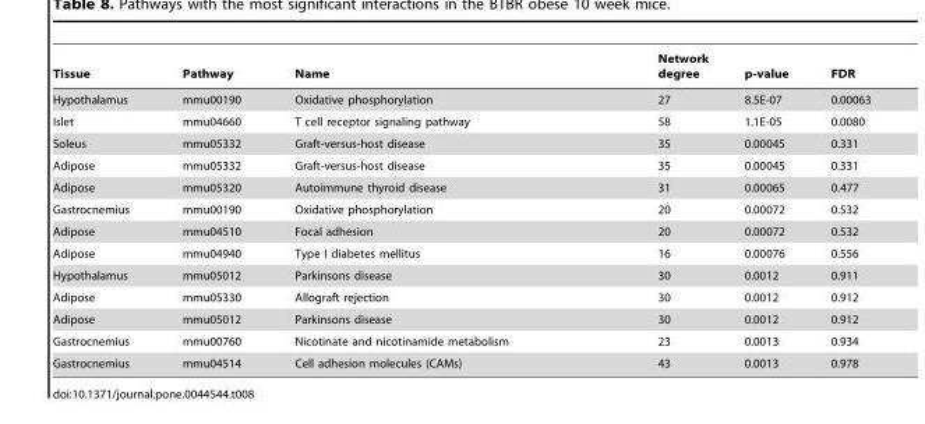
<table><thead><tr><td>Tissue</td><td>Pathway</td><td>Name</td><td>Network degree</td><td>p-value</td><td>FDR</td></tr></thead><tbody><tr><td>Hypothalamus</td><td>mmu00190</td><td>Oxidative phosphorylation</td><td>27</td><td>8.5E-07</td><td>0.00063</td></tr><tr><td>Islet</td><td>mmu04660</td><td>T cell receptor signaling pathway</td><td>58</td><td>1.1E-05</td><td>0.0080</td></tr><tr><td>Soleus</td><td>mmu05332</td><td>Graft-versus-host disease</td><td>35</td><td>0.00045</td><td>0.331</td></tr><tr><td>Adipose</td><td>mmu05332</td><td>Graft-versus-host disease</td><td>35</td><td>0.00045</td><td>0.331</td></tr><tr><td>Adipose</td><td>mmu05320</td><td>Autoimmune thyroid disease</td><td>31</td><td>0.00065</td><td>0.477</td></tr><tr><td>Gastrocnemius</td><td>mmu00190</td><td>Oxidative phosphorylation</td><td>20</td><td>0.00072</td><td>0.532</td></tr><tr><td>Adipose</td><td>mmu04510</td><td>Focal adhesion</td><td>20</td><td>0.00072</td><td>0.532</td></tr><tr><td>Adipose</td><td>mmu04940</td><td>Type I diabetes mellitus</td><td>16</td><td>0.00076</td><td>0.556</td></tr><tr><td>Hypothalamus</td><td>mmu05012</td><td>Parkinsons disease</td><td>30</td><td>0.0012</td><td>0.911</td></tr><tr><td>Adipose</td><td>mmu05330</td><td>Allograft rejection</td><td>30</td><td>0.0012</td><td>0.912</td></tr><tr><td>Adipose</td><td>mmu05012</td><td>Parkinsons disease</td><td>30</td><td>0.0012</td><td>0.912</td></tr><tr><td>Gastrocnemius</td><td>mmu00760</td><td>Nicotinate and nicotinamide metabolism</td><td>23</td><td>0.0013</td><td>0.934</td></tr><tr><td>Gastrocnemius</td><td>mmu04514</td><td>Cell adhesion molecules (CAMs)</td><td>43</td><td>0.0013</td><td>0.978</td></tr></tbody></table>